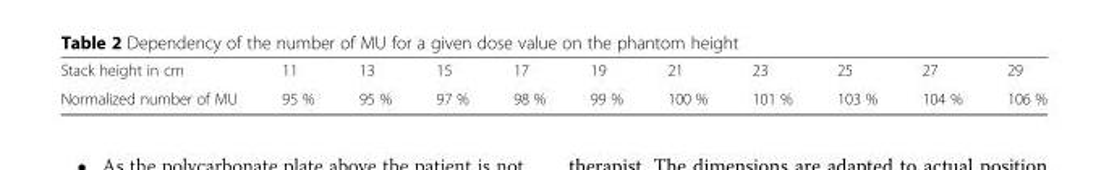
<table><tbody><tr><td>Stack height in cm</td><td>11</td><td>13</td><td>15</td><td>17</td><td>19</td><td>21</td><td>23</td><td>25</td><td>27</td><td>29</td></tr><tr><td>Normalized number of MU</td><td>95 %</td><td>95 %</td><td>97 %</td><td>98 %</td><td>99 %</td><td>100 %</td><td>101 %</td><td>103 %</td><td>104 %</td><td>106 %</td></tr></tbody></table>